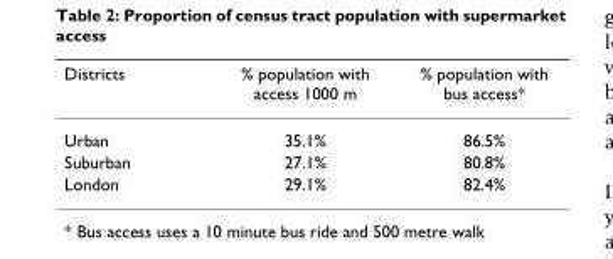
<table><thead><tr><td>Districts</td><td>% population with access 1000 m</td><td>% population with bus access*</td></tr></thead><tbody><tr><td>Urban</td><td>35.1%</td><td>86.5%</td></tr><tr><td>Suburban</td><td>27.1%</td><td>80.8%</td></tr><tr><td>London</td><td>29.1%</td><td>82.4%</td></tr></tbody></table>